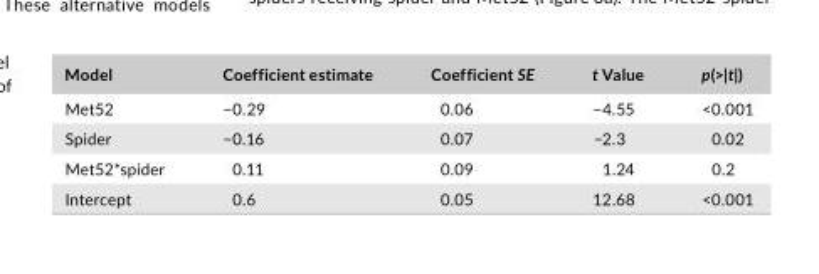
<table><thead><tr><td>Model</td><td>Coefficient estimate</td><td>Coefficient SE</td><td>t Value</td><td>p(&gt;|t|)</td></tr></thead><tbody><tr><td>Met52</td><td>−0.29</td><td>0.06</td><td>−4.55</td><td>&lt;0.001</td></tr><tr><td>Spider</td><td>−0.16</td><td>0.07</td><td>−2.3</td><td>0.02</td></tr><tr><td>Met52*spider</td><td>0.11</td><td>0.09</td><td>1.24</td><td>0.2</td></tr><tr><td>Intercept</td><td>0.6</td><td>0.05</td><td>12.68</td><td>&lt;0.001</td></tr></tbody></table>